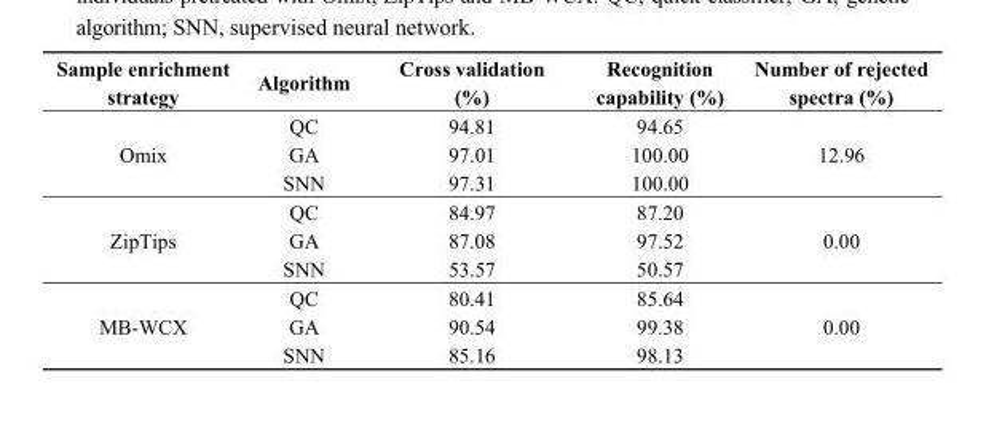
<table><thead><tr><td>Sample enrichment strategy</td><td>Algorithm</td><td>Cross validation (%)</td><td>Recognition capability (%)</td><td>Number of rejected spectra (%)</td></tr></thead><tbody><tr><td rowspan="3">Omix</td><td>QC</td><td>94.81</td><td>94.65</td><td rowspan="3">12.96</td></tr><tr><td>GA</td><td>97.01</td><td>100.00</td></tr><tr><td>SNN</td><td>97.31</td><td>100.00</td></tr><tr><td rowspan="3">ZipTips</td><td>QC</td><td>84.97</td><td>87.20</td><td rowspan="3">0.00</td></tr><tr><td>GA</td><td>87.08</td><td>97.52</td></tr><tr><td>SNN</td><td>53.57</td><td>50.57</td></tr><tr><td rowspan="3">MB-WCX</td><td>QC</td><td>80.41</td><td>85.64</td><td rowspan="3">0.00</td></tr><tr><td>GA</td><td>90.54</td><td>99.38</td></tr><tr><td>SNN</td><td>85.16</td><td>98.13</td></tr></tbody></table>